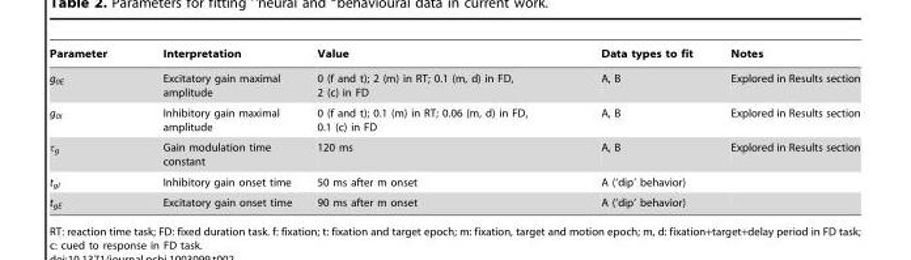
<table><thead><tr><td>Parameter</td><td>Interpretation</td><td>Value</td><td>Data types to fit</td><td>Notes</td></tr></thead><tbody><tr><td>g<sub>0E</sub></td><td>Excitatory gain maximal amplitude</td><td>0 (f and t); 2 (m) in RT; 0.1 (m, d) in FD, 2 (c) in FD</td><td>A, B</td><td>Explored in Results section</td></tr><tr><td>g<sub>0I</sub></td><td>Inhibitory gain maximal amplitude</td><td>0 (f and t); 0.1 (m) in RT; 0.06 (m, d) in FD, 0.1 (c) in FD</td><td>A, B</td><td>Explored in Results section</td></tr><tr><td>τ<sub>g</sub></td><td>Gain modulation time constant</td><td>120 ms</td><td>A, B</td><td>Explored in Results section</td></tr><tr><td>t<sub>gI</sub></td><td>Inhibitory gain onset time</td><td>50 ms after m onset</td><td>A (‘dip’ behavior)</td><td></td></tr><tr><td>t<sub>gE</sub></td><td>Excitatory gain onset time</td><td>90 ms after m onset</td><td>A (‘dip’ behavior)</td><td></td></tr></tbody></table>